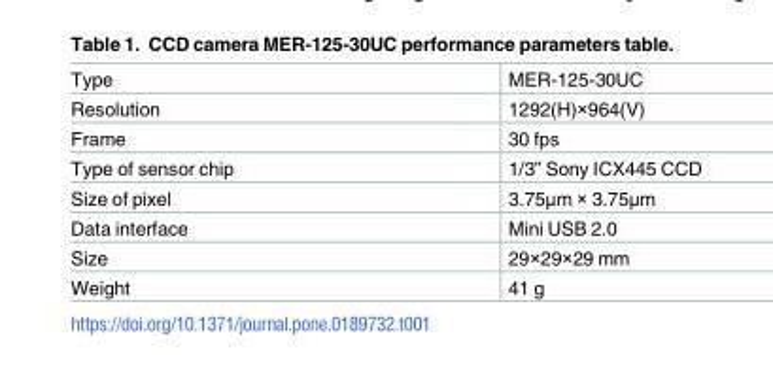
<table><tbody><tr><td>Type</td><td>MER-125-30UC</td></tr><tr><td>Resolution</td><td>1292(H)×964(V)</td></tr><tr><td>Frame</td><td>30 fps</td></tr><tr><td>Type of sensor chip</td><td>1/3” Sony ICX445 CCD</td></tr><tr><td>Size of pixel</td><td>3.75μm × 3.75μm</td></tr><tr><td>Data interface</td><td>Mini USB 2.0</td></tr><tr><td>Size</td><td>29×29×29 mm</td></tr><tr><td>Weight</td><td>41 g</td></tr></tbody></table>